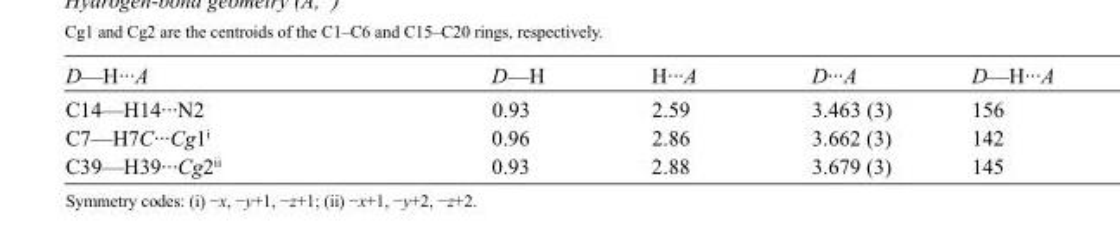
<table><tbody><tr><td>D—H···A</td><td>D—H</td><td>H···A</td><td>D···A</td><td>D—H···A</td></tr><tr><td>C14—H14···N2</td><td>0.93</td><td>2.59</td><td>3.463 (3)</td><td>156</td></tr><tr><td>C7—H7C···Cg1<sup>i</sup></td><td>0.96</td><td>2.86</td><td>3.662 (3)</td><td>142</td></tr><tr><td>C39—H39···Cg2<sup>ii</sup></td><td>0.93</td><td>2.88</td><td>3.679 (3)</td><td>145</td></tr></tbody></table>